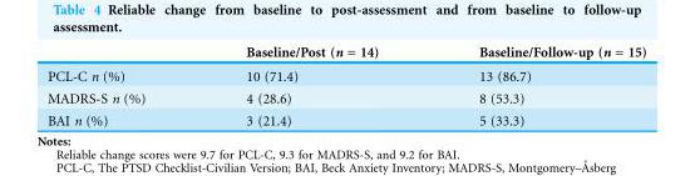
<table><thead><tr><td></td><td>Baseline/Post (n = 14)</td><td>Baseline/Follow-up (n = 15)</td></tr></thead><tbody><tr><td>PCL-C n (%)</td><td>10 (71.4)</td><td>13 (86.7)</td></tr><tr><td>MADRS-S n (%)</td><td>4 (28.6)</td><td>8 (53.3)</td></tr><tr><td>BAI n (%)</td><td>3 (21.4)</td><td>5 (33.3)</td></tr></tbody></table>